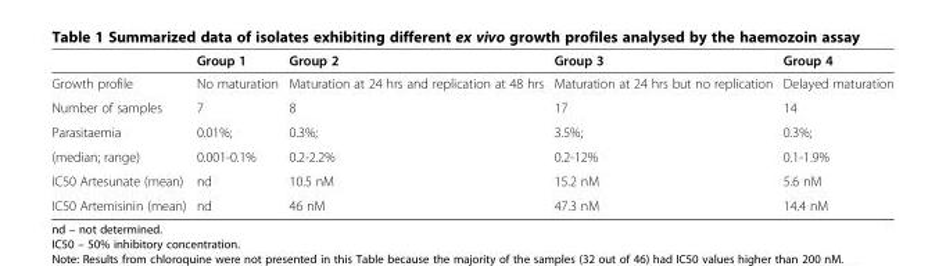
<table><thead><tr><td></td><td>Group 1</td><td>Group 2</td><td>Group 3</td><td>Group 4</td></tr></thead><tbody><tr><td>Growth profile</td><td>No maturation</td><td>Maturation at 24 hrs and replication at 48 hrs</td><td>Maturation at 24 hrs but no replication</td><td>Delayed maturation</td></tr><tr><td>Number of samples</td><td>7</td><td>8</td><td>17</td><td>14</td></tr><tr><td>Parasitaemia</td><td>0.01%;</td><td>0.3%;</td><td>3.5%;</td><td>0.3%;</td></tr><tr><td>(median; range)</td><td>0.001-0.1%</td><td>0.2-2.2%</td><td>0.2-12%</td><td>0.1-1.9%</td></tr><tr><td>IC50 Artesunate (mean)</td><td>nd</td><td>10.5 nM</td><td>15.2 nM</td><td>5.6 nM</td></tr><tr><td>IC50 Artemisinin (mean)</td><td>nd</td><td>46 nM</td><td>47.3 nM</td><td>14.4 nM</td></tr></tbody></table>